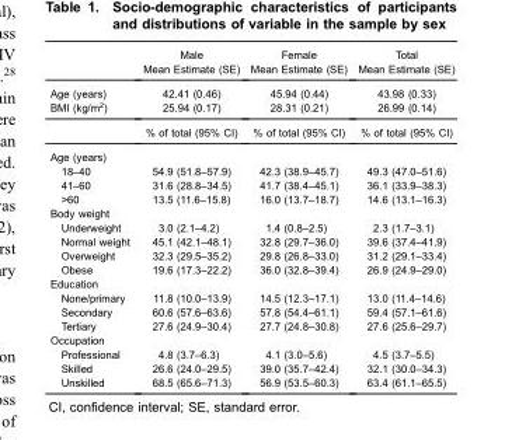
<table><thead><tr><td rowspan="2"></td><td rowspan="2">Male Mean Estimate (SE)</td><td rowspan="2">Female Mean Estimate (SE)</td><td rowspan="2">Total Mean Estimate (SE)</td></tr><tr></tr></thead><tbody><tr><td>Age (years)</td><td>42.41 (0.46)</td><td>45.94 (0.44)</td><td>43.98 (0.33)</td></tr><tr><td rowspan="2">BMI (kg/m2)</td><td>25.94 (0.17)</td><td>28.31 (0.21)</td><td>26.99 (0.14)</td></tr><tr><td>% of total (95% CI)</td><td>% of total (95% CI)</td><td>% of total (95% CI)</td></tr><tr><td colspan="4">Age (years)</td></tr><tr><td>18–40</td><td>54.9 (51.8–57.9)</td><td>42.3 (38.9–45.7)</td><td>49.3 (47.0–51.6)</td></tr><tr><td>41–60</td><td>31.6 (28.8–34.5)</td><td>41.7 (38.4–45.1)</td><td>36.1 (33.9–38.3)</td></tr><tr><td>&gt;60</td><td>13.5 (11.6–15.8)</td><td>16.0 (13.7–18.7)</td><td>14.6 (13.1–16.3)</td></tr><tr><td colspan="4">Body weight</td></tr><tr><td>Underweight</td><td>3.0 (2.1–4.2)</td><td>1.4 (0.8–2.5)</td><td>2.3 (1.7–3.1)</td></tr><tr><td>Normal weight</td><td>45.1 (42.1–48.1)</td><td>32.8 (29.7–36.0)</td><td>39.6 (37.4–41.9)</td></tr><tr><td>Overweight</td><td>32.3 (29.5–35.2)</td><td>29.8 (26.8–33.0)</td><td>31.2 (29.1–33.4)</td></tr><tr><td>Obese</td><td>19.6 (17.3–22.2)</td><td>36.0 (32.8–39.4)</td><td>26.9 (24.9–29.0)</td></tr><tr><td colspan="4">Education</td></tr><tr><td>None/primary</td><td>11.8 (10.0–13.9)</td><td>14.5 (12.3–17.1)</td><td>13.0 (11.4–14.6)</td></tr><tr><td>Secondary</td><td>60.6 (57.6–63.6)</td><td>57.8 (54.4–61.1)</td><td>59.4 (57.1–61.6)</td></tr><tr><td>Tertiary</td><td>27.6 (24.9–30.4)</td><td>27.7 (24.8–30.8)</td><td>27.6 (25.6–29.7)</td></tr><tr><td colspan="4">Occupation</td></tr><tr><td>Professional</td><td>4.8 (3.7–6.3)</td><td>4.1 (3.0–5.6)</td><td>4.5 (3.7–5.5)</td></tr><tr><td>Skilled</td><td>26.6 (24.0–29.5)</td><td>39.0 (35.7–42.4)</td><td>32.1 (30.0–34.3)</td></tr><tr><td>Unskilled</td><td>68.5 (65.6–71.3)</td><td>56.9 (53.5–60.3)</td><td>63.4 (61.1–65.5)</td></tr></tbody></table>